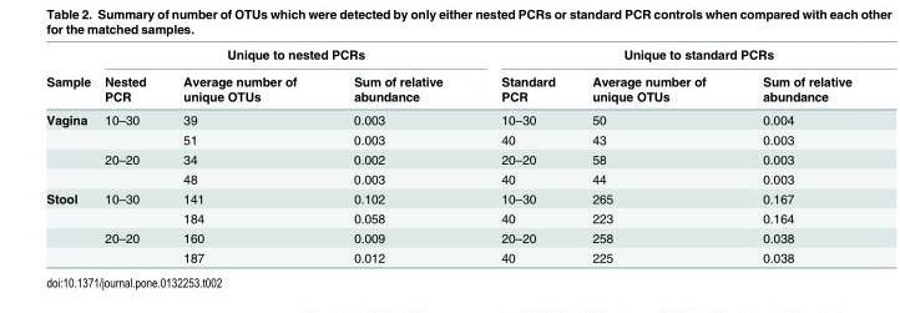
<table><thead><tr><td rowspan="2">Sample</td><td colspan="3">Unique to nested PCRs</td><td colspan="3">Unique to standard PCRs</td></tr><tr><td>Nested PCR</td><td>Average number of unique OTUs</td><td>Sum of relative abundance</td><td>Standard PCR</td><td>Average number of unique OTUs</td><td>Sum of relative abundance</td></tr></thead><tbody><tr><td rowspan="4">Vagina</td><td>10–30</td><td>39</td><td>0.003</td><td>10–30</td><td>50</td><td>0.004</td></tr><tr><td></td><td>51</td><td>0.003</td><td>40</td><td>43</td><td>0.003</td></tr><tr><td>20–20</td><td>34</td><td>0.002</td><td>20–20</td><td>58</td><td>0.003</td></tr><tr><td></td><td>48</td><td>0.003</td><td>40</td><td>44</td><td>0.003</td></tr><tr><td rowspan="4">Stool</td><td>10–30</td><td>141</td><td>0.102</td><td>10–30</td><td>265</td><td>0.167</td></tr><tr><td></td><td>184</td><td>0.058</td><td>40</td><td>223</td><td>0.164</td></tr><tr><td>20–20</td><td>160</td><td>0.009</td><td>20–20</td><td>258</td><td>0.038</td></tr><tr><td></td><td>187</td><td>0.012</td><td>40</td><td>225</td><td>0.038</td></tr></tbody></table>